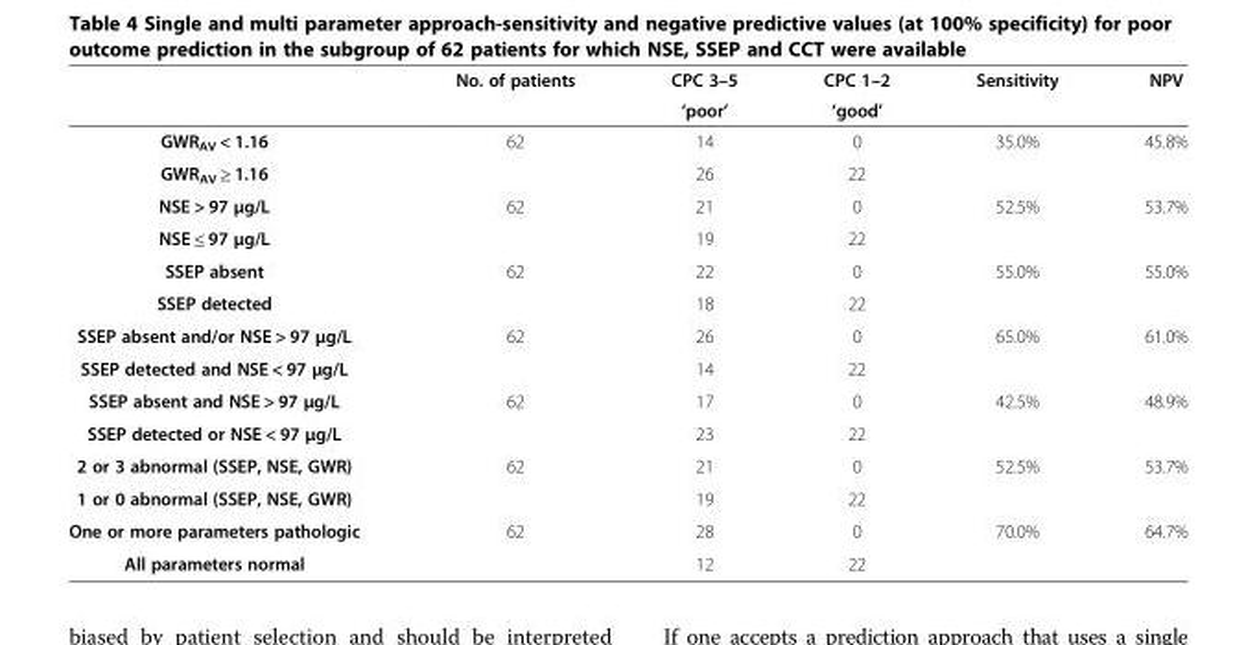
<table><thead><tr><td rowspan="2"></td><td rowspan="2">No. of patients</td><td rowspan="2">CPC 3–5 ‘poor’</td><td rowspan="2">CPC 1–2 ‘good’</td><td rowspan="2">Sensitivity</td><td rowspan="2">NPV</td></tr><tr></tr></thead><tbody><tr><td>GWR<sub>AV</sub> &lt; 1.16</td><td rowspan="2">62</td><td>14</td><td>0</td><td rowspan="2">35.0%</td><td rowspan="2">45.8%</td></tr><tr><td>GWR<sub>AV</sub> ≥ 1.16</td><td>26</td><td>22</td></tr><tr><td>NSE &gt; 97 μg/L</td><td rowspan="2">62</td><td>21</td><td>0</td><td rowspan="2">52.5%</td><td rowspan="2">53.7%</td></tr><tr><td>NSE ≤ 97 μg/L</td><td>19</td><td>22</td></tr><tr><td>SSEP absent</td><td rowspan="2">62</td><td>22</td><td>0</td><td rowspan="2">55.0%</td><td rowspan="2">55.0%</td></tr><tr><td>SSEP detected</td><td>18</td><td>22</td></tr><tr><td>SSEP absent and/or NSE &gt; 97 μg/L</td><td rowspan="2">62</td><td>26</td><td>0</td><td rowspan="2">65.0%</td><td rowspan="2">61.0%</td></tr><tr><td>SSEP detected and NSE &lt; 97 μg/L</td><td>14</td><td>22</td></tr><tr><td>SSEP absent and NSE &gt; 97 μg/L</td><td rowspan="2">62</td><td>17</td><td>0</td><td rowspan="2">42.5%</td><td rowspan="2">48.9%</td></tr><tr><td>SSEP detected or NSE &lt; 97 μg/L</td><td>23</td><td>22</td></tr><tr><td>2 or 3 abnormal (SSEP, NSE, GWR)</td><td rowspan="2">62</td><td>21</td><td>0</td><td rowspan="2">52.5%</td><td rowspan="2">53.7%</td></tr><tr><td>1 or 0 abnormal (SSEP, NSE, GWR)</td><td>19</td><td>22</td></tr><tr><td>One or more parameters pathologic</td><td>62</td><td>28</td><td>0</td><td>70.0%</td><td>64.7%</td></tr><tr><td>All parameters normal</td><td></td><td>12</td><td>22</td><td></td><td></td></tr></tbody></table>